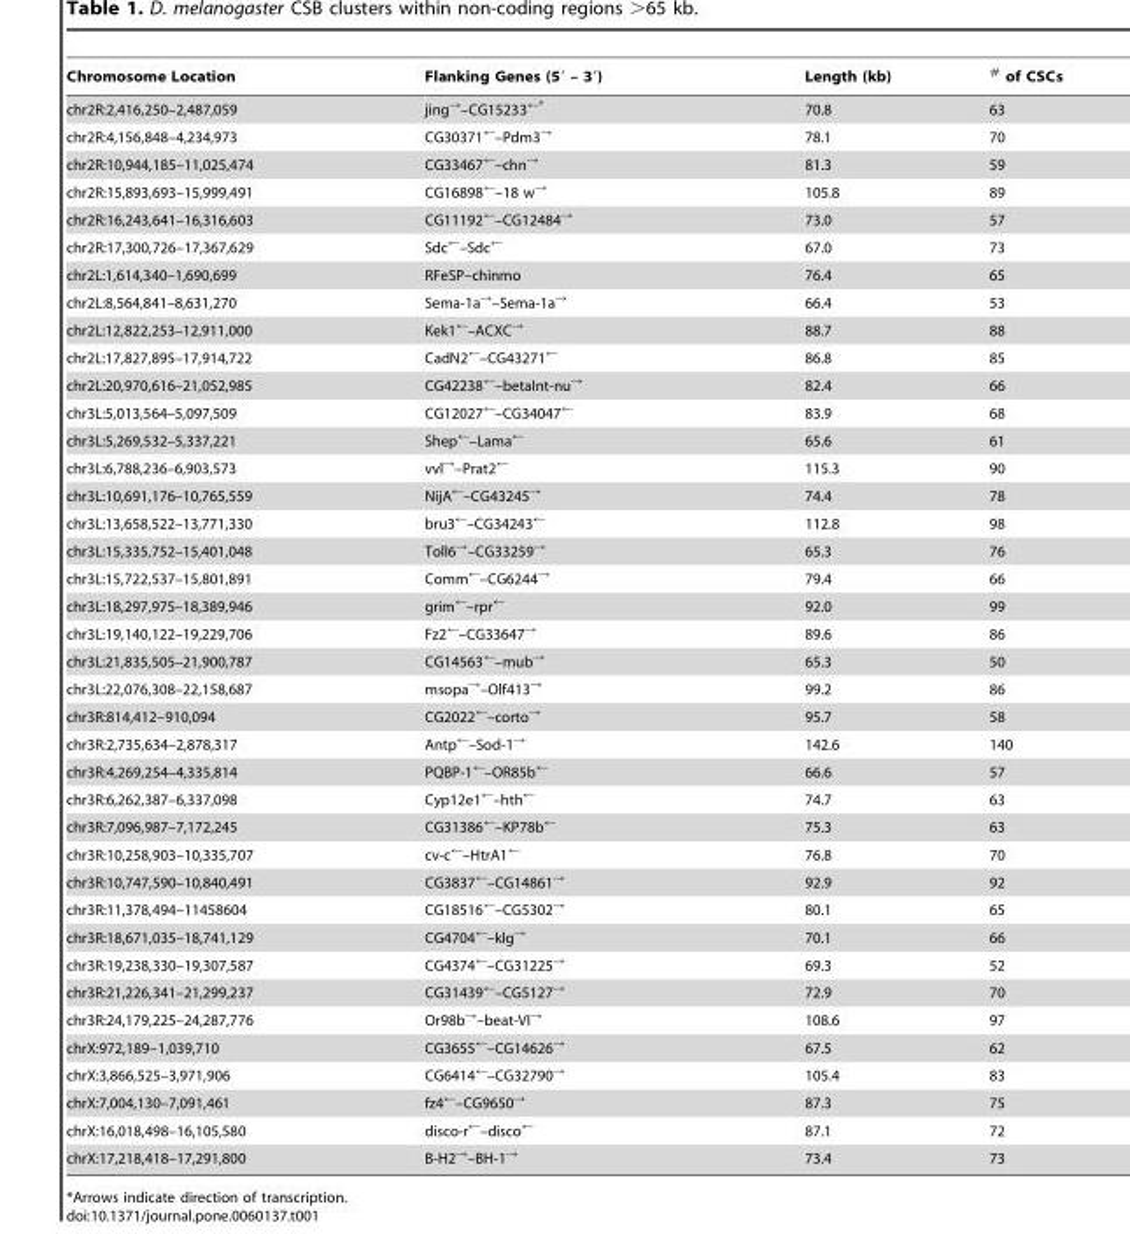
<table><thead><tr><td>Chromosome Location</td><td>Flanking Genes (5′ – 3′)</td><td>Length (kb)</td><td><sup>#</sup> of CSCs</td></tr></thead><tbody><tr><td>chr2R:2,416,250–2,487,059</td><td>jing<sup>→</sup>–CG15233<sup>←</sup>*</td><td>70.8</td><td>63</td></tr><tr><td>chr2R:4,156,848–4,234,973</td><td>CG30371<sup>←</sup>–Pdm3<sup>→</sup></td><td>78.1</td><td>70</td></tr><tr><td>chr2R:10,944,185–11,025,474</td><td>CG33467<sup>←</sup>–chn<sup>→</sup></td><td>81.3</td><td>59</td></tr><tr><td>chr2R:15,893,693–15,999,491</td><td>CG16898<sup>←</sup>–18 w<sup>→</sup></td><td>105.8</td><td>89</td></tr><tr><td>chr2R:16,243,641–16,316,603</td><td>CG11192<sup>←</sup>–CG12484<sup>→</sup></td><td>73.0</td><td>57</td></tr><tr><td>chr2R:17,300,726–17,367,629</td><td>Sdc<sup>←</sup>–Sdc<sup>←</sup></td><td>67.0</td><td>73</td></tr><tr><td>chr2L:1,614,340–1,690,699</td><td>RFeSP–chinmo</td><td>76.4</td><td>65</td></tr><tr><td>chr2L:8,564,841–8,631,270</td><td>Sema-1a<sup>→</sup>–Sema-1a<sup>→</sup></td><td>66.4</td><td>53</td></tr><tr><td>chr2L:12,822,253–12,911,000</td><td>Kek1<sup>←</sup>–ACXC<sup>→</sup></td><td>88.7</td><td>88</td></tr><tr><td>chr2L:17,827,895–17,914,722</td><td>CadN2<sup>←</sup>–CG43271<sup>←</sup></td><td>86.8</td><td>85</td></tr><tr><td>chr2L:20,970,616–21,052,985</td><td>CG42238<sup>←</sup>–betaInt-nu<sup>→</sup></td><td>82.4</td><td>66</td></tr><tr><td>chr3L:5,013,564–5,097,509</td><td>CG12027<sup>←</sup>–CG34047<sup>←</sup></td><td>83.9</td><td>68</td></tr><tr><td>chr3L:5,269,532–5,337,221</td><td>Shep<sup>←</sup>–Lama<sup>←</sup></td><td>65.6</td><td>61</td></tr><tr><td>chr3L:6,788,236–6,903,573</td><td>vvl<sup>→</sup>–Prat2<sup>←</sup></td><td>115.3</td><td>90</td></tr><tr><td>chr3L:10,691,176–10,765,559</td><td>NijA<sup>←</sup>–CG43245<sup>→</sup></td><td>74.4</td><td>78</td></tr><tr><td>chr3L:13,658,522–13,771,330</td><td>bru3<sup>←</sup>–CG34243<sup>←</sup></td><td>112.8</td><td>98</td></tr><tr><td>chr3L:15,335,752–15,401,048</td><td>Toll6<sup>→</sup>–CG33259<sup>→</sup></td><td>65.3</td><td>76</td></tr><tr><td>chr3L:15,722,537–15,801,891</td><td>Comm<sup>←</sup>–CG6244<sup>→</sup></td><td>79.4</td><td>66</td></tr><tr><td>chr3L:18,297,975–18,389,946</td><td>grim<sup>←</sup>–rpr<sup>←</sup></td><td>92.0</td><td>99</td></tr><tr><td>chr3L:19,140,122–19,229,706</td><td>Fz2<sup>←</sup>–CG33647<sup>→</sup></td><td>89.6</td><td>86</td></tr><tr><td>chr3L:21,835,505–21,900,787</td><td>CG14563<sup>←</sup>–mub<sup>→</sup></td><td>65.3</td><td>50</td></tr><tr><td>chr3L:22,076,308–22,158,687</td><td>msopa<sup>→</sup>–Olf413<sup>→</sup></td><td>99.2</td><td>86</td></tr><tr><td>chr3R:814,412–910,094</td><td>CG2022<sup>←</sup>–corto<sup>→</sup></td><td>95.7</td><td>58</td></tr><tr><td>chr3R:2,735,634–2,878,317</td><td>Antp<sup>←</sup>–Sod-1<sup>→</sup></td><td>142.6</td><td>140</td></tr><tr><td>chr3R:4,269,254–4,335,814</td><td>PQBP-1<sup>←</sup>–OR85b<sup>←</sup></td><td>66.6</td><td>57</td></tr><tr><td>chr3R:6,262,387–6,337,098</td><td>Cyp12e1<sup>←</sup>–hth<sup>←</sup></td><td>74.7</td><td>63</td></tr><tr><td>chr3R:7,096,987–7,172,245</td><td>CG31386<sup>←</sup>–KP78b<sup>←</sup></td><td>75.3</td><td>63</td></tr><tr><td>chr3R:10,258,903–10,335,707</td><td>cv-c<sup>←</sup>–HtrA1<sup>←</sup></td><td>76.8</td><td>70</td></tr><tr><td>chr3R:10,747,590–10,840,491</td><td>CG3837<sup>←</sup>–CG14861<sup>→</sup></td><td>92.9</td><td>92</td></tr><tr><td>chr3R:11,378,494–11458604</td><td>CG18516<sup>←</sup>–CG5302<sup>→</sup></td><td>80.1</td><td>65</td></tr><tr><td>chr3R:18,671,035–18,741,129</td><td>CG4704<sup>←</sup>–klg<sup>→</sup></td><td>70.1</td><td>66</td></tr><tr><td>chr3R:19,238,330–19,307,587</td><td>CG4374<sup>←</sup>–CG31225<sup>→</sup></td><td>69.3</td><td>52</td></tr><tr><td>chr3R:21,226,341–21,299,237</td><td>CG31439<sup>←</sup>–CG5127<sup>→</sup></td><td>72.9</td><td>70</td></tr><tr><td>chr3R:24,179,225–24,287,776</td><td>Or98b<sup>→</sup>–beat-VI<sup>→</sup></td><td>108.6</td><td>97</td></tr><tr><td>chrX:972,189–1,039,710</td><td>CG3655<sup>←</sup>–CG14626<sup>→</sup></td><td>67.5</td><td>62</td></tr><tr><td>chrX:3,866,525–3,971,906</td><td>CG6414<sup>←</sup>–CG32790<sup>→</sup></td><td>105.4</td><td>83</td></tr><tr><td>chrX:7,004,130–7,091,461</td><td>fz4<sup>←</sup>–CG9650<sup>→</sup></td><td>87.3</td><td>75</td></tr><tr><td>chrX:16,018,498–16,105,580</td><td>disco-r<sup>←</sup>–disco<sup>←</sup></td><td>87.1</td><td>72</td></tr><tr><td>chrX:17,218,418–17,291,800</td><td>B-H2<sup>→</sup>–BH-1<sup>→</sup></td><td>73.4</td><td>73</td></tr></tbody></table>